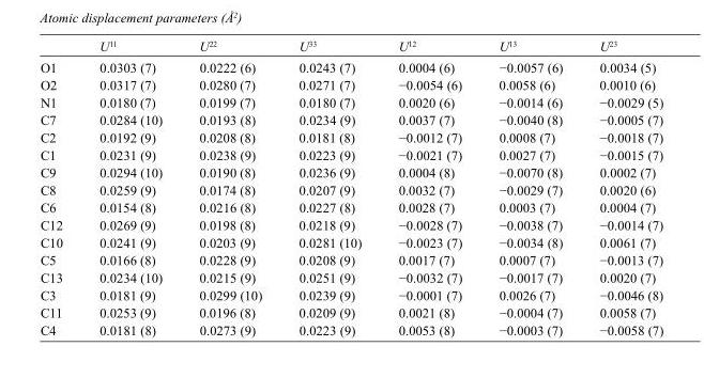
<table><thead><tr><td></td><td>U<sup>11</sup></td><td>U<sup>22</sup></td><td>U<sup>33</sup></td><td>U<sup>12</sup></td><td>U<sup>13</sup></td><td>U<sup>23</sup></td></tr></thead><tbody><tr><td>O1</td><td>0.0303 (7)</td><td>0.0222 (6)</td><td>0.0243 (7)</td><td>0.0004 (6)</td><td>−0.0057 (6)</td><td>0.0034 (5)</td></tr><tr><td>O2</td><td>0.0317 (7)</td><td>0.0280 (7)</td><td>0.0271 (7)</td><td>−0.0054 (6)</td><td>0.0058 (6)</td><td>0.0010 (6)</td></tr><tr><td>N1</td><td>0.0180 (7)</td><td>0.0199 (7)</td><td>0.0180 (7)</td><td>0.0020 (6)</td><td>−0.0014 (6)</td><td>−0.0029 (5)</td></tr><tr><td>C7</td><td>0.0284 (10)</td><td>0.0193 (8)</td><td>0.0234 (9)</td><td>0.0037 (7)</td><td>−0.0040 (8)</td><td>−0.0005 (7)</td></tr><tr><td>C2</td><td>0.0192 (9)</td><td>0.0208 (8)</td><td>0.0181 (8)</td><td>−0.0012 (7)</td><td>0.0008 (7)</td><td>−0.0018 (7)</td></tr><tr><td>C1</td><td>0.0231 (9)</td><td>0.0238 (9)</td><td>0.0223 (9)</td><td>−0.0021 (7)</td><td>0.0027 (7)</td><td>−0.0015 (7)</td></tr><tr><td>C9</td><td>0.0294 (10)</td><td>0.0190 (8)</td><td>0.0236 (9)</td><td>0.0004 (8)</td><td>−0.0070 (8)</td><td>0.0002 (7)</td></tr><tr><td>C8</td><td>0.0259 (9)</td><td>0.0174 (8)</td><td>0.0207 (9)</td><td>0.0032 (7)</td><td>−0.0029 (7)</td><td>0.0020 (6)</td></tr><tr><td>C6</td><td>0.0154 (8)</td><td>0.0216 (8)</td><td>0.0227 (8)</td><td>0.0028 (7)</td><td>0.0003 (7)</td><td>0.0004 (7)</td></tr><tr><td>C12</td><td>0.0269 (9)</td><td>0.0198 (8)</td><td>0.0218 (9)</td><td>−0.0028 (7)</td><td>−0.0038 (7)</td><td>−0.0014 (7)</td></tr><tr><td>C10</td><td>0.0241 (9)</td><td>0.0203 (9)</td><td>0.0281 (10)</td><td>−0.0023 (7)</td><td>−0.0034 (8)</td><td>0.0061 (7)</td></tr><tr><td>C5</td><td>0.0166 (8)</td><td>0.0228 (9)</td><td>0.0208 (9)</td><td>0.0017 (7)</td><td>0.0007 (7)</td><td>−0.0013 (7)</td></tr><tr><td>C13</td><td>0.0234 (10)</td><td>0.0215 (9)</td><td>0.0251 (9)</td><td>−0.0032 (7)</td><td>−0.0017 (7)</td><td>0.0020 (7)</td></tr><tr><td>C3</td><td>0.0181 (9)</td><td>0.0299 (10)</td><td>0.0239 (9)</td><td>−0.0001 (7)</td><td>0.0026 (7)</td><td>−0.0046 (8)</td></tr><tr><td>C11</td><td>0.0253 (9)</td><td>0.0196 (8)</td><td>0.0209 (9)</td><td>0.0021 (8)</td><td>−0.0004 (7)</td><td>0.0058 (7)</td></tr><tr><td>C4</td><td>0.0181 (8)</td><td>0.0273 (9)</td><td>0.0223 (9)</td><td>0.0053 (8)</td><td>−0.0003 (7)</td><td>−0.0058 (7)</td></tr></tbody></table>